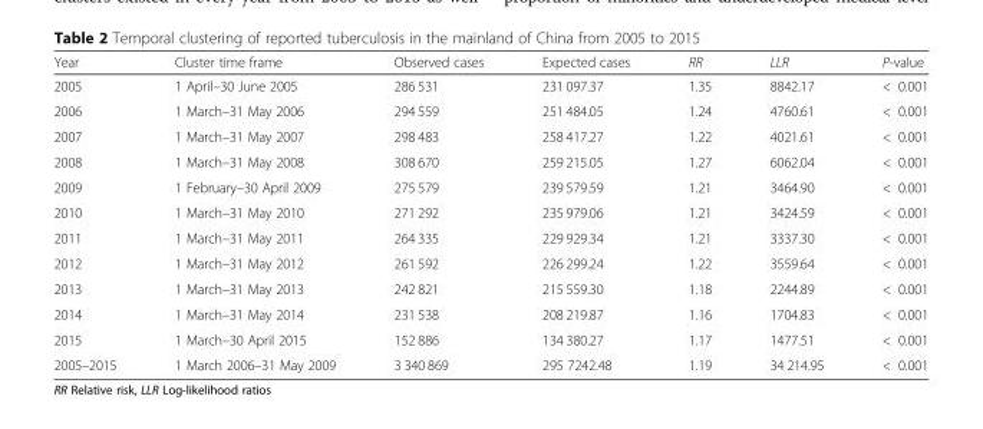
<table><thead><tr><td>Year</td><td>Cluster time frame</td><td>Observed cases</td><td>Expected cases</td><td>RR</td><td>LLR</td><td>P-value</td></tr></thead><tbody><tr><td>2005</td><td>1 April–30 June 2005</td><td>286 531</td><td>231 097.37</td><td>1.35</td><td>8842.17</td><td>&lt; 0.001</td></tr><tr><td>2006</td><td>1 March–31 May 2006</td><td>294 559</td><td>251 484.05</td><td>1.24</td><td>4760.61</td><td>&lt; 0.001</td></tr><tr><td>2007</td><td>1 March–31 May 2007</td><td>298 483</td><td>258 417.27</td><td>1.22</td><td>4021.61</td><td>&lt; 0.001</td></tr><tr><td>2008</td><td>1 March–31 May 2008</td><td>308 670</td><td>259 215.05</td><td>1.27</td><td>6062.04</td><td>&lt; 0.001</td></tr><tr><td>2009</td><td>1 February–30 April 2009</td><td>275 579</td><td>239 579.59</td><td>1.21</td><td>3464.90</td><td>&lt; 0.001</td></tr><tr><td>2010</td><td>1 March–31 May 2010</td><td>271 292</td><td>235 979.06</td><td>1.21</td><td>3424.59</td><td>&lt; 0.001</td></tr><tr><td>2011</td><td>1 March–31 May 2011</td><td>264 335</td><td>229 929.34</td><td>1.21</td><td>3337.30</td><td>&lt; 0.001</td></tr><tr><td>2012</td><td>1 March–31 May 2012</td><td>261 592</td><td>226 299.24</td><td>1.22</td><td>3559.64</td><td>&lt; 0.001</td></tr><tr><td>2013</td><td>1 March–31 May 2013</td><td>242 821</td><td>215 559.30</td><td>1.18</td><td>2244.89</td><td>&lt; 0.001</td></tr><tr><td>2014</td><td>1 March–31 May 2014</td><td>231 538</td><td>208 219.87</td><td>1.16</td><td>1704.83</td><td>&lt; 0.001</td></tr><tr><td>2015</td><td>1 March–30 April 2015</td><td>152 886</td><td>134 380.27</td><td>1.17</td><td>1477.51</td><td>&lt; 0.001</td></tr><tr><td>2005–2015</td><td>1 March 2006–31 May 2009</td><td>3 340 869</td><td>295 7242.48</td><td>1.19</td><td>34 214.95</td><td>&lt; 0.001</td></tr></tbody></table>